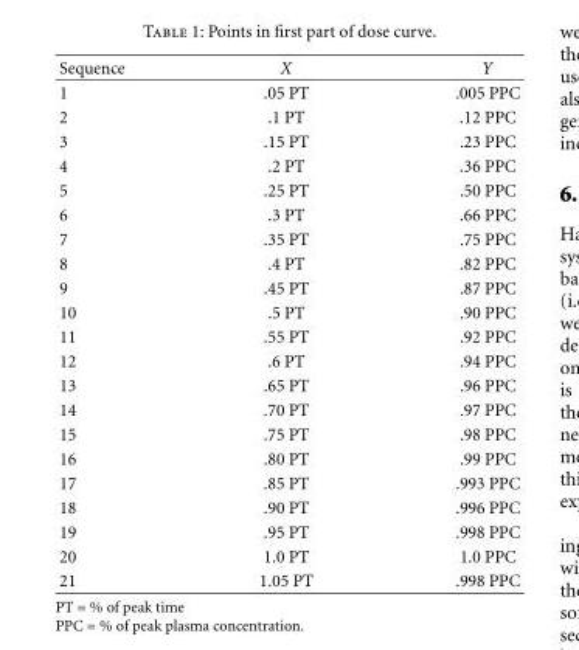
<table><thead><tr><td>Sequence</td><td>X</td><td>Y</td></tr></thead><tbody><tr><td>1</td><td>.05 PT</td><td>.005 PPC</td></tr><tr><td>2</td><td>.1 PT</td><td>.12 PPC</td></tr><tr><td>3</td><td>.15 PT</td><td>.23 PPC</td></tr><tr><td>4</td><td>.2 PT</td><td>.36 PPC</td></tr><tr><td>5</td><td>.25 PT</td><td>.50 PPC</td></tr><tr><td>6</td><td>.3 PT</td><td>.66 PPC</td></tr><tr><td>7</td><td>.35 PT</td><td>.75 PPC</td></tr><tr><td>8</td><td>.4 PT</td><td>.82 PPC</td></tr><tr><td>9</td><td>.45 PT</td><td>.87 PPC</td></tr><tr><td>10</td><td>.5 PT</td><td>.90 PPC</td></tr><tr><td>11</td><td>.55 PT</td><td>.92 PPC</td></tr><tr><td>12</td><td>.6 PT</td><td>.94 PPC</td></tr><tr><td>13</td><td>.65 PT</td><td>.96 PPC</td></tr><tr><td>14</td><td>.70 PT</td><td>.97 PPC</td></tr><tr><td>15</td><td>.75 PT</td><td>.98 PPC</td></tr><tr><td>16</td><td>.80 PT</td><td>.99 PPC</td></tr><tr><td>17</td><td>.85 PT</td><td>.993 PPC</td></tr><tr><td>18</td><td>.90 PT</td><td>.996 PPC</td></tr><tr><td>19</td><td>.95 PT</td><td>.998 PPC</td></tr><tr><td>20</td><td>1.0 PT</td><td>1.0 PPC</td></tr><tr><td>21</td><td>1.05 PT</td><td>.998 PPC</td></tr></tbody></table>